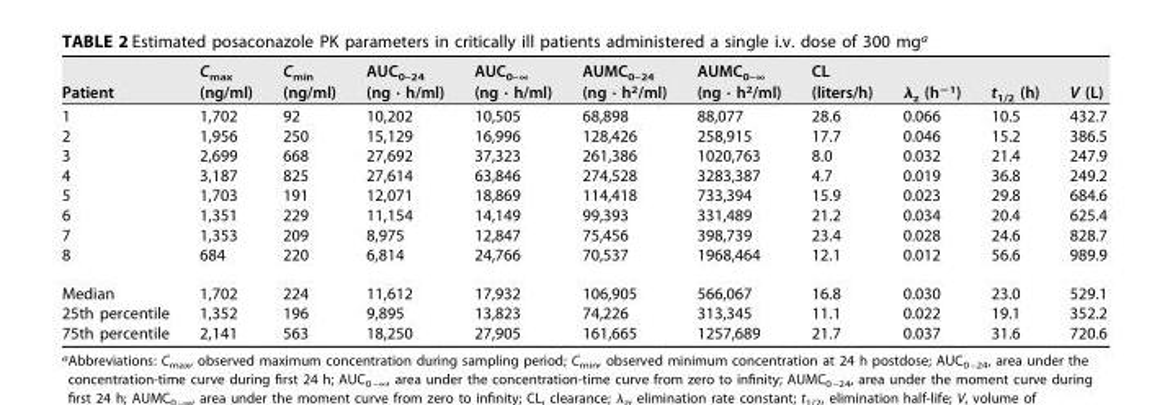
<table><thead><tr><td>Patient</td><td>C<sub>max</sub> (ng/ml)</td><td>C<sub>min</sub> (ng/ml)</td><td>AUC<sub>0–24</sub> (ng · h/ml)</td><td>AUC<sub>0–∞</sub> (ng · h/ml)</td><td>AUMC<sub>0–24</sub> (ng · h<sup>2</sup>/ml)</td><td>AUMC<sub>0–∞</sub> (ng · h<sup>2</sup>/ml)</td><td>CL (liters/h)</td><td>λ<sub>z</sub> (h<sup>−1</sup>)</td><td>t<sub>1/2</sub> (h)</td><td>V (L)</td></tr></thead><tbody><tr><td>1</td><td>1,702</td><td>92</td><td>10,202</td><td>10,505</td><td>68,898</td><td>88,077</td><td>28.6</td><td>0.066</td><td>10.5</td><td>432.7</td></tr><tr><td>2</td><td>1,956</td><td>250</td><td>15,129</td><td>16,996</td><td>128,426</td><td>258,915</td><td>17.7</td><td>0.046</td><td>15.2</td><td>386.5</td></tr><tr><td>3</td><td>2,699</td><td>668</td><td>27,692</td><td>37,323</td><td>261,386</td><td>1020,763</td><td>8.0</td><td>0.032</td><td>21.4</td><td>247.9</td></tr><tr><td>4</td><td>3,187</td><td>825</td><td>27,614</td><td>63,846</td><td>274,528</td><td>3283,387</td><td>4.7</td><td>0.019</td><td>36.8</td><td>249.2</td></tr><tr><td>5</td><td>1,703</td><td>191</td><td>12,071</td><td>18,869</td><td>114,418</td><td>733,394</td><td>15.9</td><td>0.023</td><td>29.8</td><td>684.6</td></tr><tr><td>6</td><td>1,351</td><td>229</td><td>11,154</td><td>14,149</td><td>99,393</td><td>331,489</td><td>21.2</td><td>0.034</td><td>20.4</td><td>625.4</td></tr><tr><td>7</td><td>1,353</td><td>209</td><td>8,975</td><td>12,847</td><td>75,456</td><td>398,739</td><td>23.4</td><td>0.028</td><td>24.6</td><td>828.7</td></tr><tr><td>8</td><td>684</td><td>220</td><td>6,814</td><td>24,766</td><td>70,537</td><td>1968,464</td><td>12.1</td><td>0.012</td><td>56.6</td><td>989.9</td></tr><tr><td>Median</td><td>1,702</td><td>224</td><td>11,612</td><td>17,932</td><td>106,905</td><td>566,067</td><td>16.8</td><td>0.030</td><td>23.0</td><td>529.1</td></tr><tr><td>25th percentile</td><td>1,352</td><td>196</td><td>9,895</td><td>13,823</td><td>74,226</td><td>313,345</td><td>11.1</td><td>0.022</td><td>19.1</td><td>352.2</td></tr><tr><td>75th percentile</td><td>2,141</td><td>563</td><td>18,250</td><td>27,905</td><td>161,665</td><td>1257,689</td><td>21.7</td><td>0.037</td><td>31.6</td><td>720.6</td></tr></tbody></table>